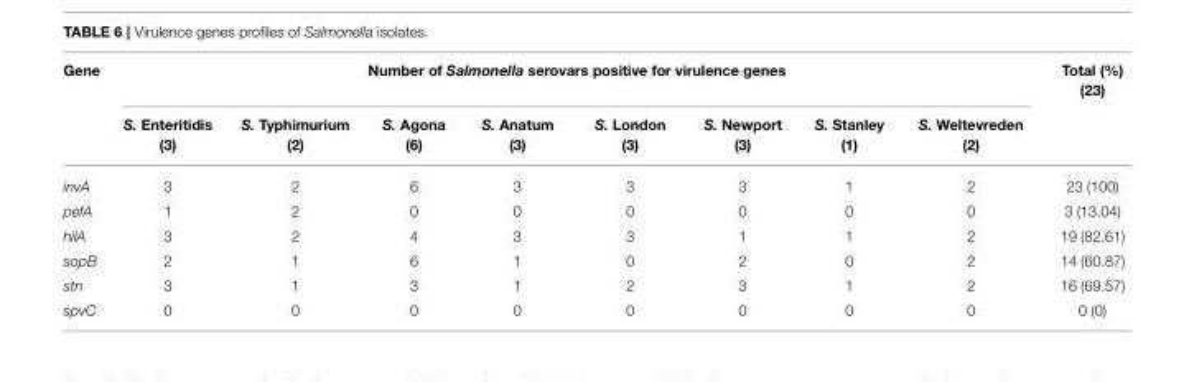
<table><thead><tr><td rowspan="2">Gene</td><td colspan="8">Number of Salmonella serovars positive for virulence genes</td><td rowspan="2">Total (%) (23)</td></tr><tr><td>S. Enteritidis (3)</td><td>S. Typhimurium (2)</td><td>S. Agona (6)</td><td>S. Anatum (3)</td><td>S. London (3)</td><td>S. Newport (3)</td><td>S. Stanley (1)</td><td>S. Weltevreden (2)</td></tr></thead><tbody><tr><td>invA</td><td>3</td><td>2</td><td>6</td><td>3</td><td>3</td><td>3</td><td>1</td><td>2</td><td>23 (100)</td></tr><tr><td>pefA</td><td>1</td><td>2</td><td>0</td><td>0</td><td>0</td><td>0</td><td>0</td><td>0</td><td>3 (13.04)</td></tr><tr><td>hilA</td><td>3</td><td>2</td><td>4</td><td>3</td><td>3</td><td>1</td><td>1</td><td>2</td><td>19 (82.61)</td></tr><tr><td>sopB</td><td>2</td><td>1</td><td>6</td><td>1</td><td>0</td><td>2</td><td>0</td><td>2</td><td>14 (60.87)</td></tr><tr><td>stn</td><td>3</td><td>1</td><td>3</td><td>1</td><td>2</td><td>3</td><td>1</td><td>2</td><td>16 (69.57)</td></tr><tr><td>spvC</td><td>0</td><td>0</td><td>0</td><td>0</td><td>0</td><td>0</td><td>0</td><td>0</td><td>0 (0)</td></tr></tbody></table>